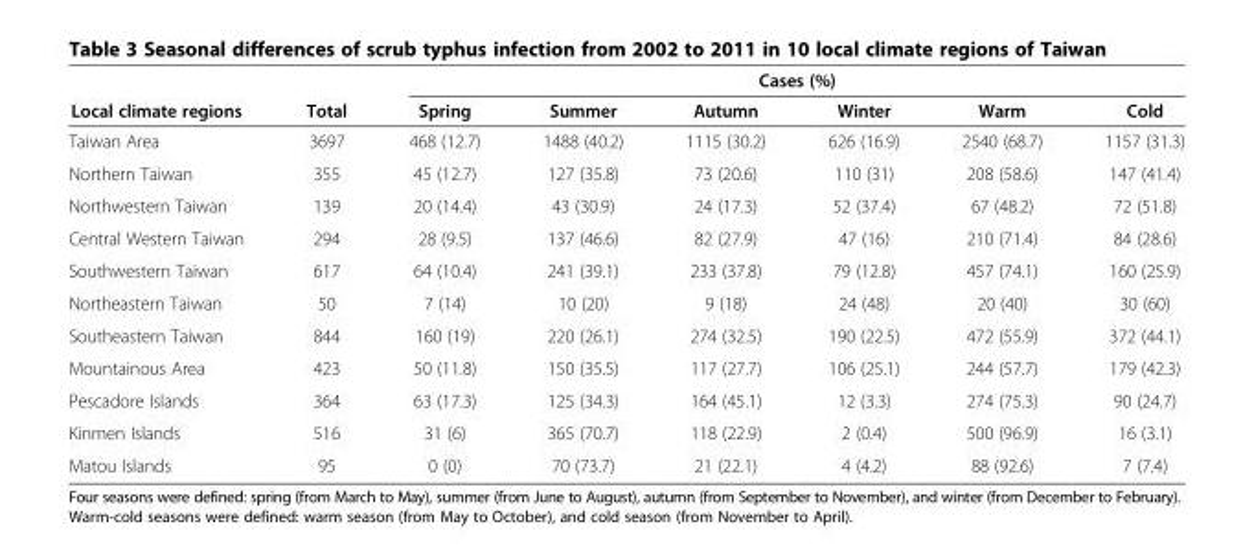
<table><thead><tr><td rowspan="2">Local climate regions</td><td rowspan="2">Total</td><td colspan="6">Cases (%)</td></tr><tr><td>Spring</td><td>Summer</td><td>Autumn</td><td>Winter</td><td>Warm</td><td>Cold</td></tr></thead><tbody><tr><td>Taiwan Area</td><td>3697</td><td>468 (12.7)</td><td>1488 (40.2)</td><td>1115 (30.2)</td><td>626 (16.9)</td><td>2540 (68.7)</td><td>1157 (31.3)</td></tr><tr><td>Northern Taiwan</td><td>355</td><td>45 (12.7)</td><td>127 (35.8)</td><td>73 (20.6)</td><td>110 (31)</td><td>208 (58.6)</td><td>147 (41.4)</td></tr><tr><td>Northwestern Taiwan</td><td>139</td><td>20 (14.4)</td><td>43 (30.9)</td><td>24 (17.3)</td><td>52 (37.4)</td><td>67 (48.2)</td><td>72 (51.8)</td></tr><tr><td>Central Western Taiwan</td><td>294</td><td>28 (9.5)</td><td>137 (46.6)</td><td>82 (27.9)</td><td>47 (16)</td><td>210 (71.4)</td><td>84 (28.6)</td></tr><tr><td>Southwestern Taiwan</td><td>617</td><td>64 (10.4)</td><td>241 (39.1)</td><td>233 (37.8)</td><td>79 (12.8)</td><td>457 (74.1)</td><td>160 (25.9)</td></tr><tr><td>Northeastern Taiwan</td><td>50</td><td>7 (14)</td><td>10 (20)</td><td>9 (18)</td><td>24 (48)</td><td>20 (40)</td><td>30 (60)</td></tr><tr><td>Southeastern Taiwan</td><td>844</td><td>160 (19)</td><td>220 (26.1)</td><td>274 (32.5)</td><td>190 (22.5)</td><td>472 (55.9)</td><td>372 (44.1)</td></tr><tr><td>Mountainous Area</td><td>423</td><td>50 (11.8)</td><td>150 (35.5)</td><td>117 (27.7)</td><td>106 (25.1)</td><td>244 (57.7)</td><td>179 (42.3)</td></tr><tr><td>Pescadore Islands</td><td>364</td><td>63 (17.3)</td><td>125 (34.3)</td><td>164 (45.1)</td><td>12 (3.3)</td><td>274 (75.3)</td><td>90 (24.7)</td></tr><tr><td>Kinmen Islands</td><td>516</td><td>31 (6)</td><td>365 (70.7)</td><td>118 (22.9)</td><td>2 (0.4)</td><td>500 (96.9)</td><td>16 (3.1)</td></tr><tr><td>Matou Islands</td><td>95</td><td>0 (0)</td><td>70 (73.7)</td><td>21 (22.1)</td><td>4 (4.2)</td><td>88 (92.6)</td><td>7 (7.4)</td></tr></tbody></table>